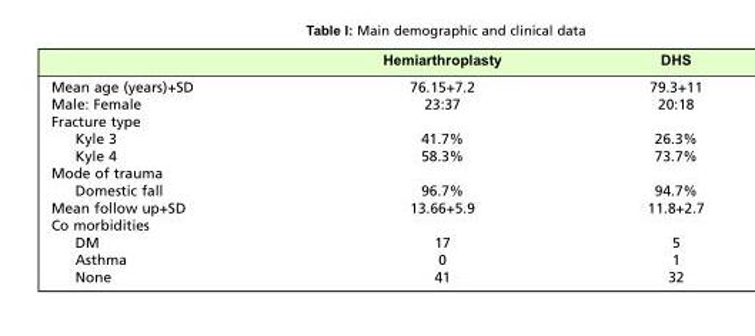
<table><thead><tr><td></td><td>Hemiarthroplasty</td><td>DHS</td></tr></thead><tbody><tr><td>Mean age (years)+SD</td><td>76.15+7.2</td><td>79.3+11</td></tr><tr><td>Male: Female</td><td>23:37</td><td>20:18</td></tr><tr><td colspan="3">Fracture type</td></tr><tr><td>Kyle 3</td><td>41.7%</td><td>26.3%</td></tr><tr><td>Kyle 4</td><td>58.3%</td><td>73.7%</td></tr><tr><td colspan="3">Mode of trauma</td></tr><tr><td>Domestic fall</td><td>96.7%</td><td>94.7%</td></tr><tr><td>Mean follow up+SD</td><td>13.66+5.9</td><td>11.8+2.7</td></tr><tr><td colspan="3">Co morbidities</td></tr><tr><td>DM</td><td>17</td><td>5</td></tr><tr><td>Asthma</td><td>0</td><td>1</td></tr><tr><td>None</td><td>41</td><td>32</td></tr></tbody></table>